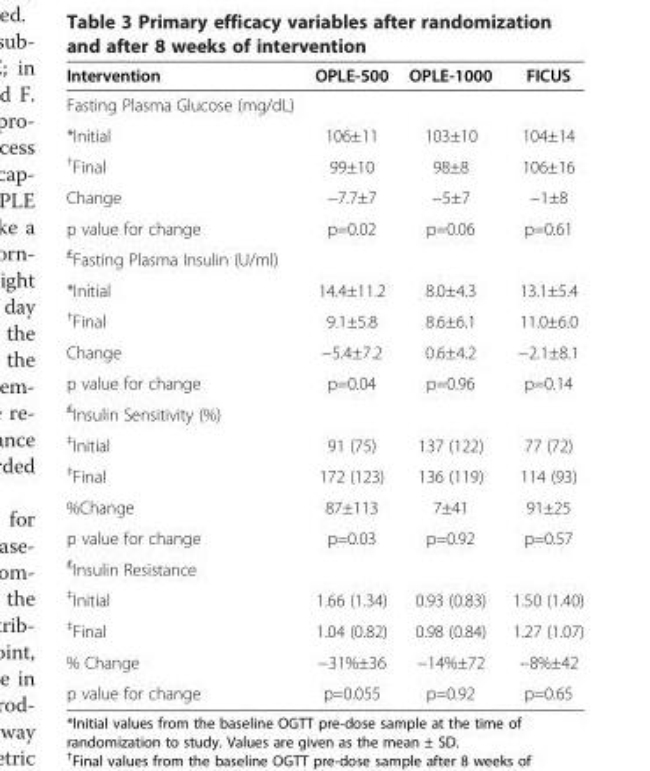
<table><thead><tr><td>Intervention</td><td>OPLE-500</td><td>OPLE-1000</td><td>FICUS</td></tr></thead><tbody><tr><td colspan="4">Fasting Plasma Glucose (mg/dL)</td></tr><tr><td>*Initial</td><td>106±11</td><td>103±10</td><td>104±14</td></tr><tr><td><sup>†</sup>Final</td><td>99±10</td><td>98±8</td><td>106±16</td></tr><tr><td>Change</td><td>−7.7±7</td><td>−5±7</td><td>−1±8</td></tr><tr><td>p value for change</td><td>p=0.02</td><td>p=0.06</td><td>p=0.61</td></tr><tr><td colspan="4"><sup>₤</sup>Fasting Plasma Insulin (U/ml)</td></tr><tr><td>*Initial</td><td>14.4±11.2</td><td>8.0±4.3</td><td>13.1±5.4</td></tr><tr><td><sup>†</sup>Final</td><td>9.1±5.8</td><td>8.6±6.1</td><td>11.0±6.0</td></tr><tr><td>Change</td><td>−5.4±7.2</td><td>0.6±4.2</td><td>−2.1±8.1</td></tr><tr><td>p value for change</td><td>p=0.04</td><td>p=0.96</td><td>p=0.14</td></tr><tr><td colspan="4"><sup>₤</sup>Insulin Sensitivity (%)</td></tr><tr><td><sup>‡</sup>Initial</td><td>91 (75)</td><td>137 (122)</td><td>77 (72)</td></tr><tr><td><sup>‡</sup>Final</td><td>172 (123)</td><td>136 (119)</td><td>114 (93)</td></tr><tr><td>%Change</td><td>87±113</td><td>7±41</td><td>91±25</td></tr><tr><td>p value for change</td><td>p=0.03</td><td>p=0.92</td><td>p=0.57</td></tr><tr><td colspan="4"><sup>₤</sup>Insulin Resistance</td></tr><tr><td><sup>‡</sup>Initial</td><td>1.66 (1.34)</td><td>0.93 (0.83)</td><td>1.50 (1.40)</td></tr><tr><td><sup>‡</sup>Final</td><td>1.04 (0.82)</td><td>0.98 (0.84)</td><td>1.27 (1.07)</td></tr><tr><td>% Change</td><td>−31%±36</td><td>−14%±72</td><td>−8%±42</td></tr><tr><td>p value for change</td><td>p=0.055</td><td>p=0.92</td><td>p=0.65</td></tr></tbody></table>